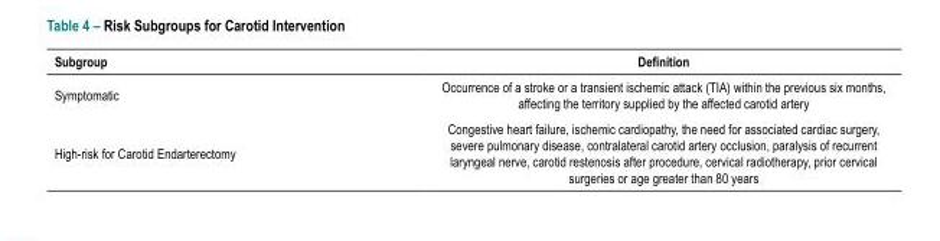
<table><thead><tr><td>Subgroup</td><td>Definition</td></tr></thead><tbody><tr><td>Symptomatic</td><td>Occurrence of a stroke or a transient ischemic attack (TIA) within the previous six months, affecting the territory supplied by the affected carotid artery</td></tr><tr><td>High-risk for Carotid Endarterectomy</td><td>Congestive heart failure, ischemic cardiopathy, the need for associated cardiac surgery, severe pulmonary disease, contralateral carotid artery occlusion, paralysis of recurrent laryngeal nerve, carotid restenosis after procedure, cervical radiotherapy, prior cervical surgeries or age greater than 80 years</td></tr></tbody></table>